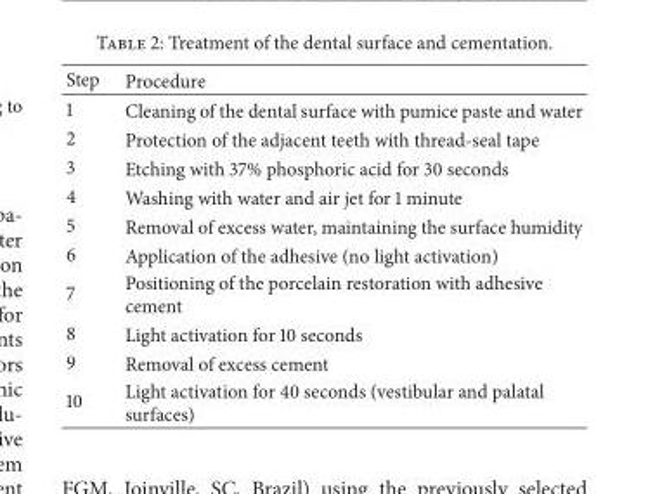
<table><thead><tr><td>Step</td><td>Procedure</td></tr></thead><tbody><tr><td>1</td><td>Cleaning of the dental surface with pumice paste and water</td></tr><tr><td>2</td><td>Protection of the adjacent teeth with thread-seal tape</td></tr><tr><td>3</td><td>Etching with 37% phosphoric acid for 30 seconds</td></tr><tr><td>4</td><td>Washing with water and air jet for 1 minute</td></tr><tr><td>5</td><td>Removal of excess water, maintaining the surface humidity</td></tr><tr><td>6</td><td>Application of the adhesive (no light activation)</td></tr><tr><td>7</td><td>Positioning of the porcelain restoration with adhesive cement</td></tr><tr><td>8</td><td>Light activation for 10 seconds</td></tr><tr><td>9</td><td>Removal of excess cement</td></tr><tr><td>10</td><td>Light activation for 40 seconds (vestibular and palatal surfaces)</td></tr></tbody></table>